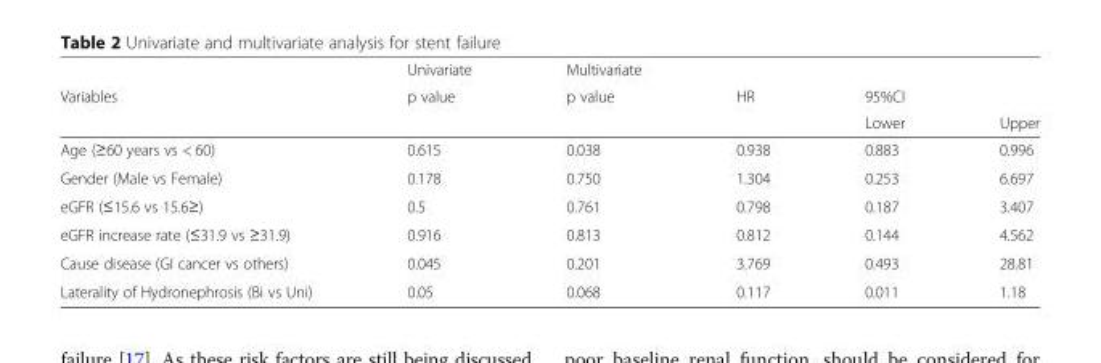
<table><thead><tr><td rowspan="3">Variables</td><td rowspan="3">Univariate p value</td><td rowspan="3">Multivariate p value</td><td rowspan="3">HR</td><td rowspan="3">95%CI Lower</td><td rowspan="3">Upper</td></tr><tr></tr><tr></tr></thead><tbody><tr><td>Age (≥60 years vs &lt; 60)</td><td>0.615</td><td>0.038</td><td>0.938</td><td>0.883</td><td>0.996</td></tr><tr><td>Gender (Male vs Female)</td><td>0.178</td><td>0.750</td><td>1.304</td><td>0.253</td><td>6.697</td></tr><tr><td>eGFR (≤15.6 vs 15.6≥)</td><td>0.5</td><td>0.761</td><td>0.798</td><td>0.187</td><td>3.407</td></tr><tr><td>eGFR increase rate (≤31.9 vs ≥31.9)</td><td>0.916</td><td>0.813</td><td>0.812</td><td>0.144</td><td>4.562</td></tr><tr><td>Cause disease (GI cancer vs others)</td><td>0.045</td><td>0.201</td><td>3.769</td><td>0.493</td><td>28.81</td></tr><tr><td>Laterality of Hydronephrosis (Bi vs Uni)</td><td>0.05</td><td>0.068</td><td>0.117</td><td>0.011</td><td>1.18</td></tr></tbody></table>